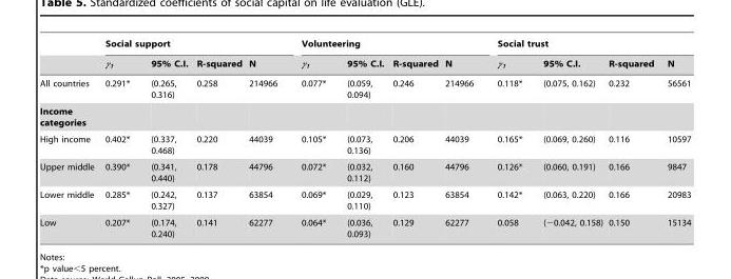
<table><thead><tr><td rowspan="2"></td><td colspan="4">Social support</td><td colspan="4">Volunteering</td><td colspan="4">Social trust</td></tr><tr><td>γ<sub>1</sub></td><td>95% C.I.</td><td>R-squared</td><td>N</td><td>γ<sub>1</sub></td><td>95% C.I.</td><td>R-squared</td><td>N</td><td>γ<sub>1</sub></td><td>95% C.I.</td><td>R-squared</td><td>N</td></tr></thead><tbody><tr><td>All countries</td><td>0.291*</td><td>(0.265, 0.316)</td><td>0.258</td><td>214966</td><td>0.077*</td><td>(0.059, 0.094)</td><td>0.246</td><td>214966</td><td>0.118*</td><td>(0.075, 0.162)</td><td>0.232</td><td>56561</td></tr><tr><td colspan="13">Income categories</td></tr><tr><td>High income</td><td>0.402*</td><td>(0.337, 0.468)</td><td>0.220</td><td>44039</td><td>0.105*</td><td>(0.073, 0.136)</td><td>0.206</td><td>44039</td><td>0.165*</td><td>(0.069, 0.260)</td><td>0.116</td><td>10597</td></tr><tr><td>Upper middle</td><td>0.390*</td><td>(0.341, 0.440)</td><td>0.178</td><td>44796</td><td>0.072*</td><td>(0.032, 0.112)</td><td>0.160</td><td>44796</td><td>0.126*</td><td>(0.060, 0.191)</td><td>0.166</td><td>9847</td></tr><tr><td>Lower middle</td><td>0.285*</td><td>(0.242, 0.327)</td><td>0.137</td><td>63854</td><td>0.069*</td><td>(0.029, 0.110)</td><td>0.123</td><td>63854</td><td>0.142*</td><td>(0.063, 0.220)</td><td>0.166</td><td>20983</td></tr><tr><td>Low</td><td>0.207*</td><td>(0.174, 0.240)</td><td>0.141</td><td>62277</td><td>0.064*</td><td>(0.036, 0.093)</td><td>0.129</td><td>62277</td><td>0.058</td><td>(−0.042, 0.158)</td><td>0.150</td><td>15134</td></tr></tbody></table>